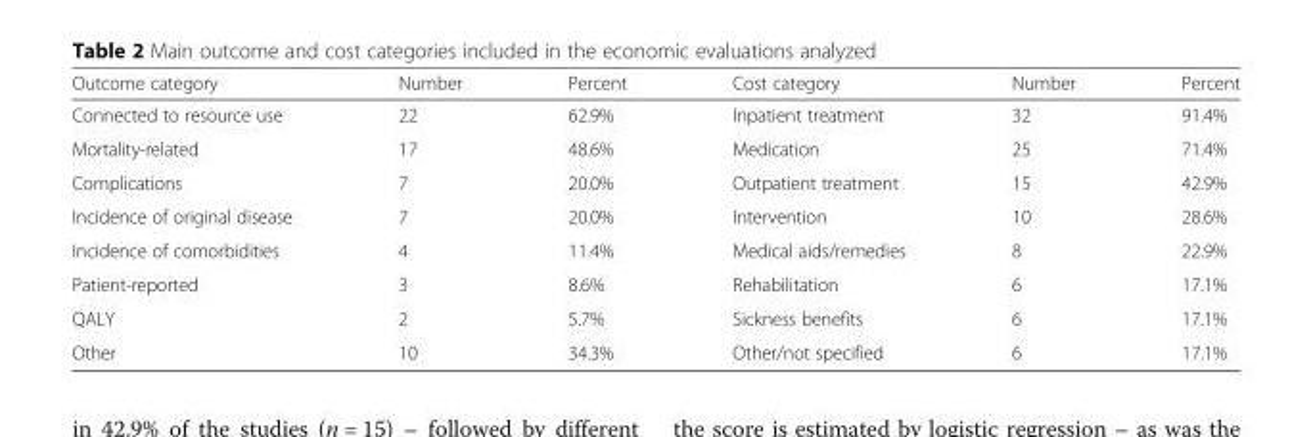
<table><thead><tr><td>Outcome category</td><td>Number</td><td>Percent</td><td>Cost category</td><td>Number</td><td>Percent</td></tr></thead><tbody><tr><td>Connected to resource use</td><td>22</td><td>62.9%</td><td>Inpatient treatment</td><td>32</td><td>91.4%</td></tr><tr><td>Mortality-related</td><td>17</td><td>48.6%</td><td>Medication</td><td>25</td><td>71.4%</td></tr><tr><td>Complications</td><td>7</td><td>20.0%</td><td>Outpatient treatment</td><td>15</td><td>42.9%</td></tr><tr><td>Incidence of original disease</td><td>7</td><td>20.0%</td><td>Intervention</td><td>10</td><td>28.6%</td></tr><tr><td>Incidence of comorbidities</td><td>4</td><td>11.4%</td><td>Medical aids/remedies</td><td>8</td><td>22.9%</td></tr><tr><td>Patient-reported</td><td>3</td><td>8.6%</td><td>Rehabilitation</td><td>6</td><td>17.1%</td></tr><tr><td>QALY</td><td>2</td><td>5.7%</td><td>Sickness benefits</td><td>6</td><td>17.1%</td></tr><tr><td>Other</td><td>10</td><td>34.3%</td><td>Other/not specified</td><td>6</td><td>17.1%</td></tr></tbody></table>